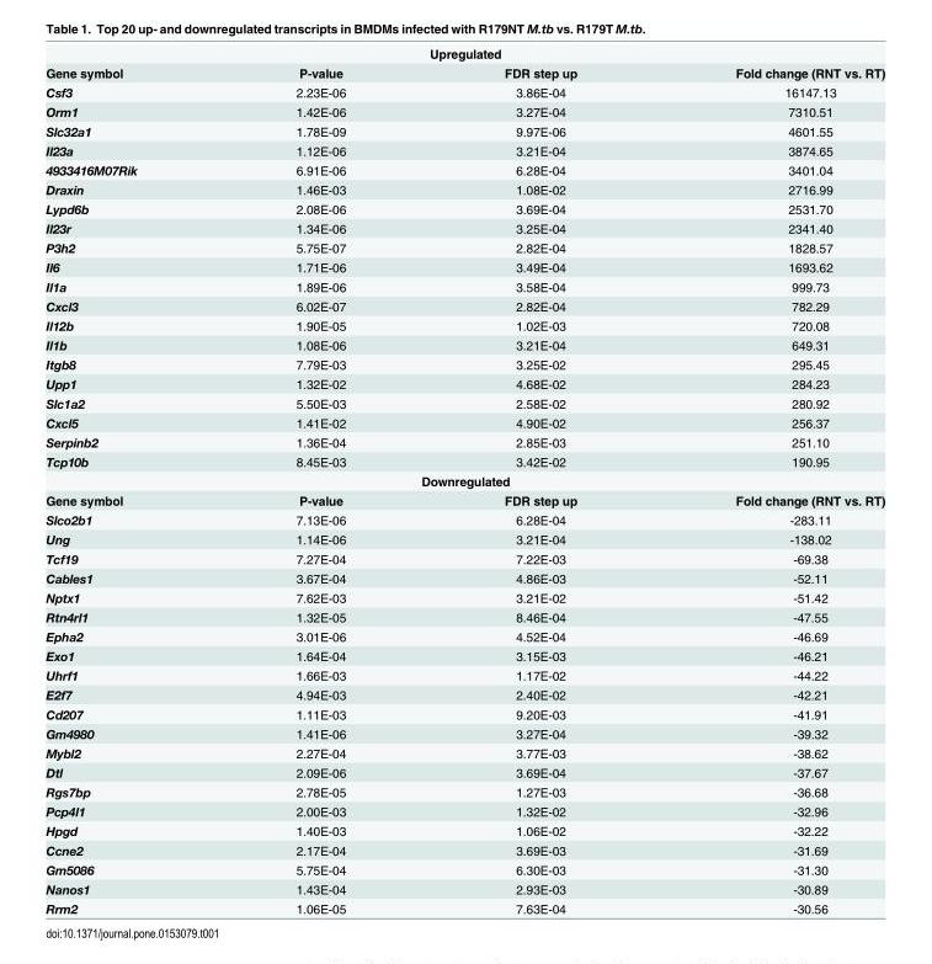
<table><tbody><tr><td colspan="4">Upregulated</td></tr><tr><td>Gene symbol</td><td>P-value</td><td>FDR step up</td><td>Fold change (RNT vs. RT)</td></tr><tr><td>Csf3</td><td>2.23E-06</td><td>3.86E-04</td><td>16147.13</td></tr><tr><td>Orm1</td><td>1.42E-06</td><td>3.27E-04</td><td>7310.51</td></tr><tr><td>Slc32a1</td><td>1.78E-09</td><td>9.97E-06</td><td>4601.55</td></tr><tr><td>Il23a</td><td>1.12E-06</td><td>3.21E-04</td><td>3874.65</td></tr><tr><td>4933416M07Rik</td><td>6.91E-06</td><td>6.28E-04</td><td>3401.04</td></tr><tr><td>Draxin</td><td>1.46E-03</td><td>1.08E-02</td><td>2716.99</td></tr><tr><td>Lypd6b</td><td>2.08E-06</td><td>3.69E-04</td><td>2531.70</td></tr><tr><td>Il23r</td><td>1.34E-06</td><td>3.25E-04</td><td>2341.40</td></tr><tr><td>P3h2</td><td>5.75E-07</td><td>2.82E-04</td><td>1828.57</td></tr><tr><td>Il6</td><td>1.71E-06</td><td>3.49E-04</td><td>1693.62</td></tr><tr><td>Il1a</td><td>1.89E-06</td><td>3.58E-04</td><td>999.73</td></tr><tr><td>Cxcl3</td><td>6.02E-07</td><td>2.82E-04</td><td>782.29</td></tr><tr><td>Il12b</td><td>1.90E-05</td><td>1.02E-03</td><td>720.08</td></tr><tr><td>Il1b</td><td>1.08E-06</td><td>3.21E-04</td><td>649.31</td></tr><tr><td>Itgb8</td><td>7.79E-03</td><td>3.25E-02</td><td>295.45</td></tr><tr><td>Upp1</td><td>1.32E-02</td><td>4.68E-02</td><td>284.23</td></tr><tr><td>Slc1a2</td><td>5.50E-03</td><td>2.58E-02</td><td>280.92</td></tr><tr><td>Cxcl5</td><td>1.41E-02</td><td>4.90E-02</td><td>256.37</td></tr><tr><td>Serpinb2</td><td>1.36E-04</td><td>2.85E-03</td><td>251.10</td></tr><tr><td>Tcp10b</td><td>8.45E-03</td><td>3.42E-02</td><td>190.95</td></tr><tr><td colspan="4">Downregulated</td></tr><tr><td>Gene symbol</td><td>P-value</td><td>FDR step up</td><td>Fold change (RNT vs. RT)</td></tr><tr><td>Slco2b1</td><td>7.13E-06</td><td>6.28E-04</td><td>-283.11</td></tr><tr><td>Ung</td><td>1.14E-06</td><td>3.21E-04</td><td>-138.02</td></tr><tr><td>Tcf19</td><td>7.27E-04</td><td>7.22E-03</td><td>-69.38</td></tr><tr><td>Cables1</td><td>3.67E-04</td><td>4.86E-03</td><td>-52.11</td></tr><tr><td>Nptx1</td><td>7.62E-03</td><td>3.21E-02</td><td>-51.42</td></tr><tr><td>Rtn4rl1</td><td>1.32E-05</td><td>8.46E-04</td><td>-47.55</td></tr><tr><td>Epha2</td><td>3.01E-06</td><td>4.52E-04</td><td>-46.69</td></tr><tr><td>Exo1</td><td>1.64E-04</td><td>3.15E-03</td><td>-46.21</td></tr><tr><td>Uhrf1</td><td>1.66E-03</td><td>1.17E-02</td><td>-44.22</td></tr><tr><td>E2f7</td><td>4.94E-03</td><td>2.40E-02</td><td>-42.21</td></tr><tr><td>Cd207</td><td>1.11E-03</td><td>9.20E-03</td><td>-41.91</td></tr><tr><td>Gm4980</td><td>1.41E-06</td><td>3.27E-04</td><td>-39.32</td></tr><tr><td>Mybl2</td><td>2.27E-04</td><td>3.77E-03</td><td>-38.62</td></tr><tr><td>Dtl</td><td>2.09E-06</td><td>3.69E-04</td><td>-37.67</td></tr><tr><td>Rgs7bp</td><td>2.78E-05</td><td>1.27E-03</td><td>-36.68</td></tr><tr><td>Pcp4l1</td><td>2.00E-03</td><td>1.32E-02</td><td>-32.96</td></tr><tr><td>Hpgd</td><td>1.40E-03</td><td>1.06E-02</td><td>-32.22</td></tr><tr><td>Ccne2</td><td>2.17E-04</td><td>3.69E-03</td><td>-31.69</td></tr><tr><td>Gm5086</td><td>5.75E-04</td><td>6.30E-03</td><td>-31.30</td></tr><tr><td>Nanos1</td><td>1.43E-04</td><td>2.93E-03</td><td>-30.89</td></tr><tr><td>Rrm2</td><td>1.06E-05</td><td>7.63E-04</td><td>-30.56</td></tr></tbody></table>